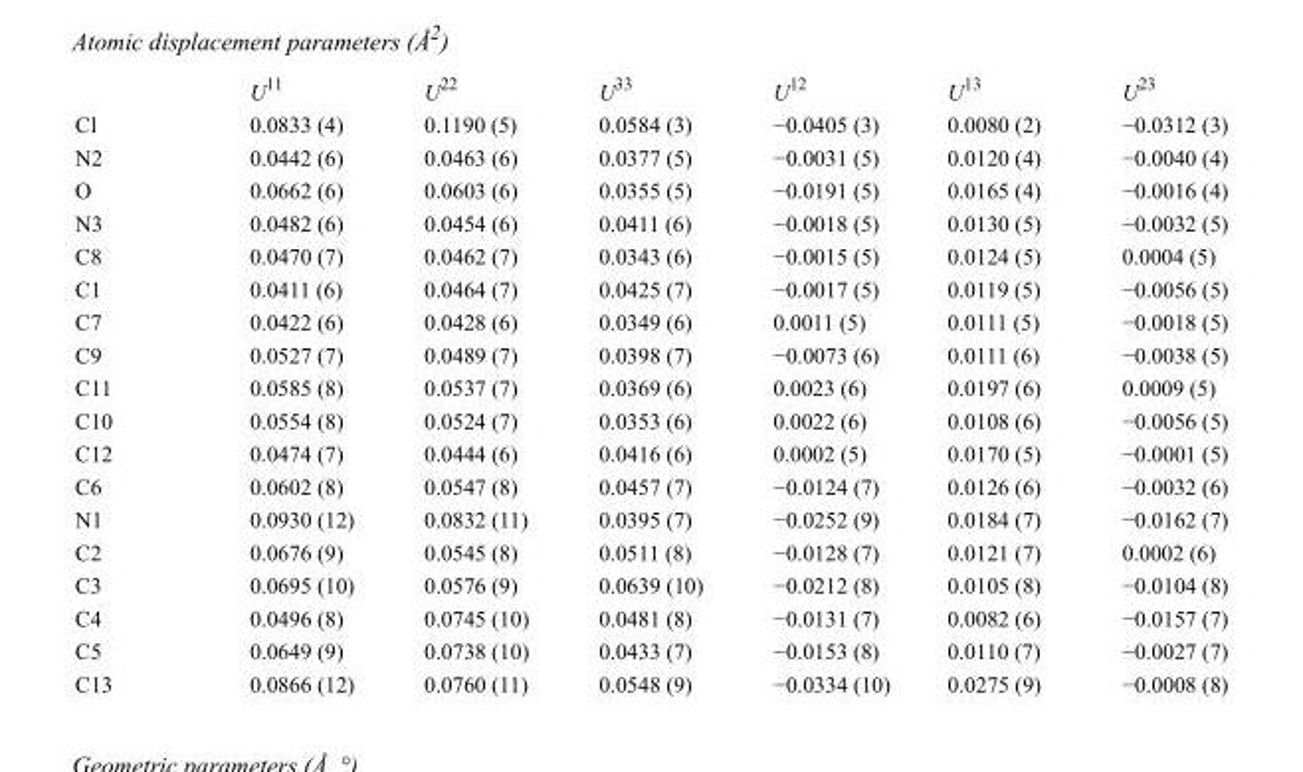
<table><thead><tr><td></td><td>U<sup>11</sup></td><td>U<sup>22</sup></td><td>U<sup>33</sup></td><td>U<sup>12</sup></td><td>U<sup>13</sup></td><td>U<sup>23</sup></td></tr></thead><tbody><tr><td>Cl</td><td>0.0833 (4)</td><td>0.1190 (5)</td><td>0.0584 (3)</td><td>−0.0405 (3)</td><td>0.0080 (2)</td><td>−0.0312 (3)</td></tr><tr><td>N2</td><td>0.0442 (6)</td><td>0.0463 (6)</td><td>0.0377 (5)</td><td>−0.0031 (5)</td><td>0.0120 (4)</td><td>−0.0040 (4)</td></tr><tr><td>O</td><td>0.0662 (6)</td><td>0.0603 (6)</td><td>0.0355 (5)</td><td>−0.0191 (5)</td><td>0.0165 (4)</td><td>−0.0016 (4)</td></tr><tr><td>N3</td><td>0.0482 (6)</td><td>0.0454 (6)</td><td>0.0411 (6)</td><td>−0.0018 (5)</td><td>0.0130 (5)</td><td>−0.0032 (5)</td></tr><tr><td>C8</td><td>0.0470 (7)</td><td>0.0462 (7)</td><td>0.0343 (6)</td><td>−0.0015 (5)</td><td>0.0124 (5)</td><td>0.0004 (5)</td></tr><tr><td>C1</td><td>0.0411 (6)</td><td>0.0464 (7)</td><td>0.0425 (7)</td><td>−0.0017 (5)</td><td>0.0119 (5)</td><td>−0.0056 (5)</td></tr><tr><td>C7</td><td>0.0422 (6)</td><td>0.0428 (6)</td><td>0.0349 (6)</td><td>0.0011 (5)</td><td>0.0111 (5)</td><td>−0.0018 (5)</td></tr><tr><td>C9</td><td>0.0527 (7)</td><td>0.0489 (7)</td><td>0.0398 (7)</td><td>−0.0073 (6)</td><td>0.0111 (6)</td><td>−0.0038 (5)</td></tr><tr><td>C11</td><td>0.0585 (8)</td><td>0.0537 (7)</td><td>0.0369 (6)</td><td>0.0023 (6)</td><td>0.0197 (6)</td><td>0.0009 (5)</td></tr><tr><td>C10</td><td>0.0554 (8)</td><td>0.0524 (7)</td><td>0.0353 (6)</td><td>0.0022 (6)</td><td>0.0108 (6)</td><td>−0.0056 (5)</td></tr><tr><td>C12</td><td>0.0474 (7)</td><td>0.0444 (6)</td><td>0.0416 (6)</td><td>0.0002 (5)</td><td>0.0170 (5)</td><td>−0.0001 (5)</td></tr><tr><td>C6</td><td>0.0602 (8)</td><td>0.0547 (8)</td><td>0.0457 (7)</td><td>−0.0124 (7)</td><td>0.0126 (6)</td><td>−0.0032 (6)</td></tr><tr><td>N1</td><td>0.0930 (12)</td><td>0.0832 (11)</td><td>0.0395 (7)</td><td>−0.0252 (9)</td><td>0.0184 (7)</td><td>−0.0162 (7)</td></tr><tr><td>C2</td><td>0.0676 (9)</td><td>0.0545 (8)</td><td>0.0511 (8)</td><td>−0.0128 (7)</td><td>0.0121 (7)</td><td>0.0002 (6)</td></tr><tr><td>C3</td><td>0.0695 (10)</td><td>0.0576 (9)</td><td>0.0639 (10)</td><td>−0.0212 (8)</td><td>0.0105 (8)</td><td>−0.0104 (8)</td></tr><tr><td>C4</td><td>0.0496 (8)</td><td>0.0745 (10)</td><td>0.0481 (8)</td><td>−0.0131 (7)</td><td>0.0082 (6)</td><td>−0.0157 (7)</td></tr><tr><td>C5</td><td>0.0649 (9)</td><td>0.0738 (10)</td><td>0.0433 (7)</td><td>−0.0153 (8)</td><td>0.0110 (7)</td><td>−0.0027 (7)</td></tr><tr><td>C13</td><td>0.0866 (12)</td><td>0.0760 (11)</td><td>0.0548 (9)</td><td>−0.0334 (10)</td><td>0.0275 (9)</td><td>−0.0008 (8)</td></tr></tbody></table>